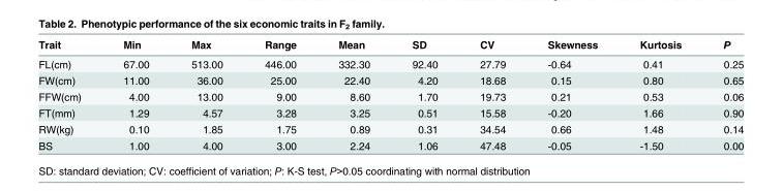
<table><thead><tr><td>Trait</td><td>Min</td><td>Max</td><td>Range</td><td>Mean</td><td>SD</td><td>CV</td><td>Skewness</td><td>Kurtosis</td><td>P</td></tr></thead><tbody><tr><td>FL(cm)</td><td>67.00</td><td>513.00</td><td>446.00</td><td>332.30</td><td>92.40</td><td>27.79</td><td>-0.64</td><td>0.41</td><td>0.25</td></tr><tr><td>FW(cm)</td><td>11.00</td><td>36.00</td><td>25.00</td><td>22.40</td><td>4.20</td><td>18.68</td><td>0.15</td><td>0.80</td><td>0.65</td></tr><tr><td>FFW(cm)</td><td>4.00</td><td>13.00</td><td>9.00</td><td>8.60</td><td>1.70</td><td>19.73</td><td>0.21</td><td>0.53</td><td>0.06</td></tr><tr><td>FT(mm)</td><td>1.29</td><td>4.57</td><td>3.28</td><td>3.25</td><td>0.51</td><td>15.58</td><td>-0.20</td><td>1.66</td><td>0.90</td></tr><tr><td>RW(kg)</td><td>0.10</td><td>1.85</td><td>1.75</td><td>0.89</td><td>0.31</td><td>34.54</td><td>0.66</td><td>1.48</td><td>0.14</td></tr><tr><td>BS</td><td>1.00</td><td>4.00</td><td>3.00</td><td>2.24</td><td>1.06</td><td>47.48</td><td>-0.05</td><td>-1.50</td><td>0.00</td></tr></tbody></table>